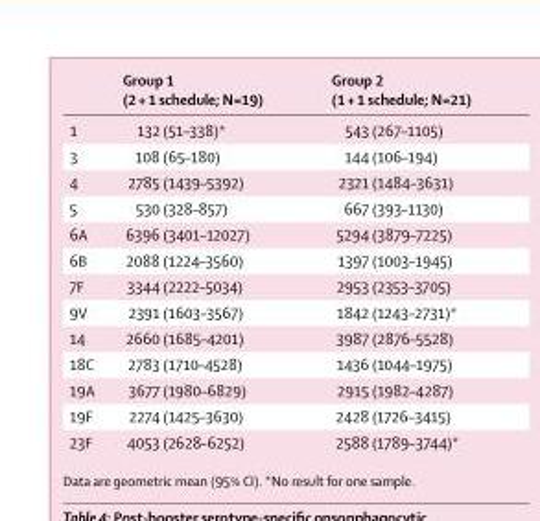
<table><thead><tr><td></td><td>Group 1 (2 + 1 schedule; N=19)</td><td>Group 2 (1 + 1 schedule; N=21)</td></tr></thead><tbody><tr><td>1</td><td>132 (51–338)*</td><td>543 (267–1105)</td></tr><tr><td>3</td><td>108 (65–180)</td><td>144 (106–194)</td></tr><tr><td>4</td><td>2785 (1439–5392)</td><td>2321 (1484–3631)</td></tr><tr><td>5</td><td>530 (328–857)</td><td>667 (393–1130)</td></tr><tr><td>6A</td><td>6396 (3401–12027)</td><td>5294 (3879–7225)</td></tr><tr><td>6B</td><td>2088 (1224–3560)</td><td>1397 (1003–1945)</td></tr><tr><td>7F</td><td>3344 (2222–5034)</td><td>2953 (2353–3705)</td></tr><tr><td>9V</td><td>2391 (1603–3567)</td><td>1842 (1243–2731)*</td></tr><tr><td>14</td><td>2660 (1685–4201)</td><td>3987 (2876–5528)</td></tr><tr><td>18C</td><td>2783 (1710–4528)</td><td>1436 (1044–1975)</td></tr><tr><td>19A</td><td>3677 (1980–6829)</td><td>2915 (1982–4287)</td></tr><tr><td>19F</td><td>2274 (1425–3630)</td><td>2428 (1726–3415)</td></tr><tr><td>23F</td><td>4053 (2628–6252)</td><td>2588 (1789–3744)*</td></tr></tbody></table>